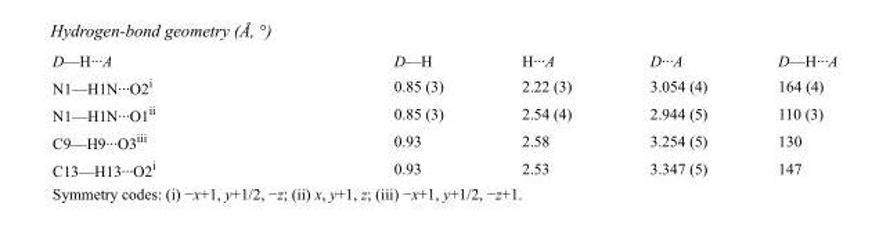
<table><tbody><tr><td>D—H···A</td><td>D—H</td><td>H···A</td><td>D···A</td><td>D—H···A</td></tr><tr><td>N1—H1N···O2<sup>i</sup></td><td>0.85 (3)</td><td>2.22 (3)</td><td>3.054 (4)</td><td>164 (4)</td></tr><tr><td>N1—H1N···O1<sup>ii</sup></td><td>0.85 (3)</td><td>2.54 (4)</td><td>2.944 (5)</td><td>110 (3)</td></tr><tr><td>C9—H9···O3<sup>iii</sup></td><td>0.93</td><td>2.58</td><td>3.254 (5)</td><td>130</td></tr><tr><td>C13—H13···O2<sup>i</sup></td><td>0.93</td><td>2.53</td><td>3.347 (5)</td><td>147</td></tr></tbody></table>